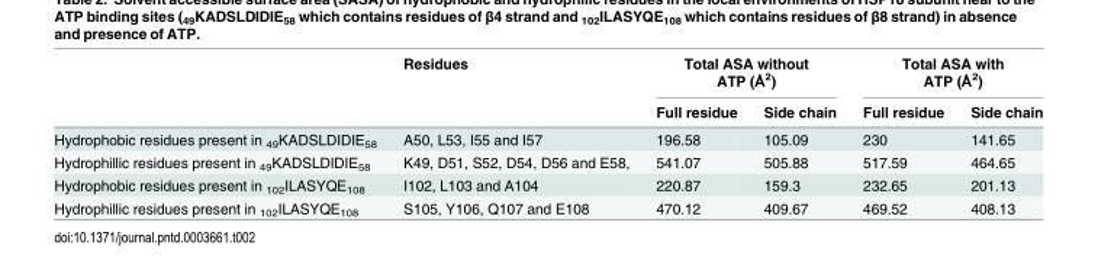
<table><thead><tr><td rowspan="2"></td><td rowspan="2">Residues</td><td colspan="2">Total ASA without ATP (Å<sup>2</sup>)</td><td colspan="2">Total ASA with ATP (Å<sup>2</sup>)</td></tr><tr><td>Full residue</td><td>Side chain</td><td>Full residue</td><td>Side chain</td></tr></thead><tbody><tr><td>Hydrophobic residues present in <sub>49</sub>KADSLDIDIE<sub>58</sub></td><td>A50, L53, I55 and I57</td><td>196.58</td><td>105.09</td><td>230</td><td>141.65</td></tr><tr><td>Hydrophillic residues present in <sub>49</sub>KADSLDIDIE<sub>58</sub></td><td>K49, D51, S52, D54, D56 and E58,</td><td>541.07</td><td>505.88</td><td>517.59</td><td>464.65</td></tr><tr><td>Hydrophobic residues present in <sub>102</sub>ILASYQE<sub>108</sub></td><td>I102, L103 and A104</td><td>220.87</td><td>159.3</td><td>232.65</td><td>201.13</td></tr><tr><td>Hydrophillic residues present in <sub>102</sub>ILASYQE<sub>108</sub></td><td>S105, Y106, Q107 and E108</td><td>470.12</td><td>409.67</td><td>469.52</td><td>408.13</td></tr></tbody></table>